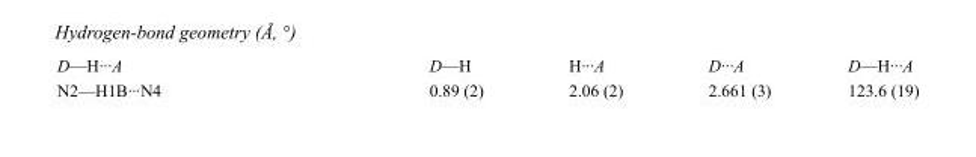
<table><tbody><tr><td>D—H···A</td><td>D—H</td><td>H···A</td><td>D···A</td><td>D—H···A</td></tr><tr><td>N2—H1B···N4</td><td>0.89 (2)</td><td>2.06 (2)</td><td>2.661 (3)</td><td>123.6 (19)</td></tr></tbody></table>